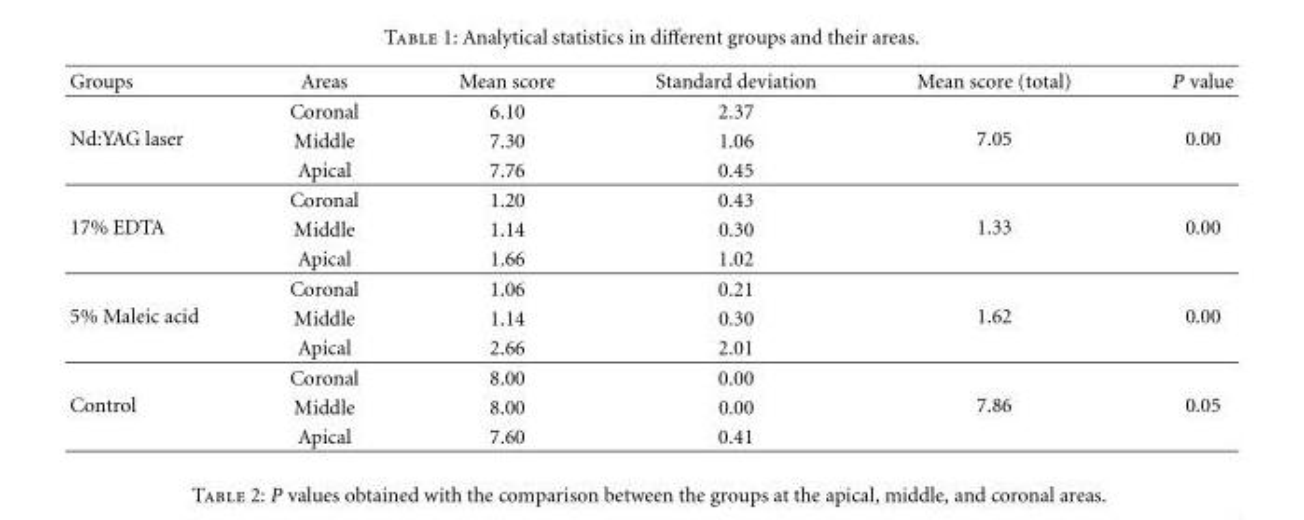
<table><thead><tr><td>Groups</td><td>Areas</td><td>Mean score</td><td>Standard deviation</td><td>Mean score (total)</td><td>P value</td></tr></thead><tbody><tr><td rowspan="3">Nd:YAG laser</td><td>Coronal</td><td>6.10</td><td>2.37</td><td rowspan="3">7.05</td><td rowspan="3">0.00</td></tr><tr><td>Middle</td><td>7.30</td><td>1.06</td></tr><tr><td>Apical</td><td>7.76</td><td>0.45</td></tr><tr><td rowspan="3">17% EDTA</td><td>Coronal</td><td>1.20</td><td>0.43</td><td rowspan="3">1.33</td><td rowspan="3">0.00</td></tr><tr><td>Middle</td><td>1.14</td><td>0.30</td></tr><tr><td>Apical</td><td>1.66</td><td>1.02</td></tr><tr><td rowspan="3">5% Maleic acid</td><td>Coronal</td><td>1.06</td><td>0.21</td><td rowspan="3">1.62</td><td rowspan="3">0.00</td></tr><tr><td>Middle</td><td>1.14</td><td>0.30</td></tr><tr><td>Apical</td><td>2.66</td><td>2.01</td></tr><tr><td rowspan="3">Control</td><td>Coronal</td><td>8.00</td><td>0.00</td><td rowspan="3">7.86</td><td rowspan="3">0.05</td></tr><tr><td>Middle</td><td>8.00</td><td>0.00</td></tr><tr><td>Apical</td><td>7.60</td><td>0.41</td></tr></tbody></table>